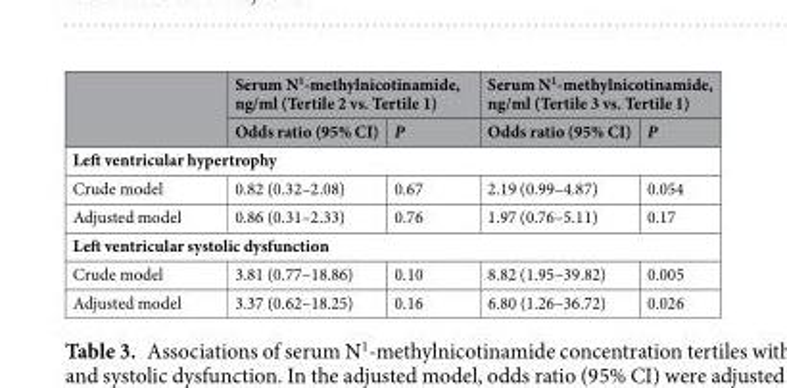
<table><thead><tr><td rowspan="2"></td><td colspan="2">Serum N<sup>1</sup>-methylnicotinamide, ng/ml (Tertile 2 vs. Tertile 1)</td><td colspan="2">Serum N<sup>1</sup>-methylnicotinamide, ng/ml (Tertile 3 vs. Tertile 1)</td></tr><tr><td>Odds ratio (95% CI)</td><td>P</td><td>Odds ratio (95% CI)</td><td>P</td></tr></thead><tbody><tr><td colspan="5">Left ventricular hypertrophy</td></tr><tr><td>Crude model</td><td>0.82 (0.32–2.08)</td><td>0.67</td><td>2.19 (0.99–4.87)</td><td>0.054</td></tr><tr><td>Adjusted model</td><td>0.86 (0.31–2.33)</td><td>0.76</td><td>1.97 (0.76–5.11)</td><td>0.17</td></tr><tr><td colspan="5">Left ventricular systolic dysfunction</td></tr><tr><td>Crude model</td><td>3.81 (0.77–18.86)</td><td>0.10</td><td>8.82 (1.95–39.82)</td><td>0.005</td></tr><tr><td>Adjusted model</td><td>3.37 (0.62–18.25)</td><td>0.16</td><td>6.80 (1.26–36.72)</td><td>0.026</td></tr></tbody></table>